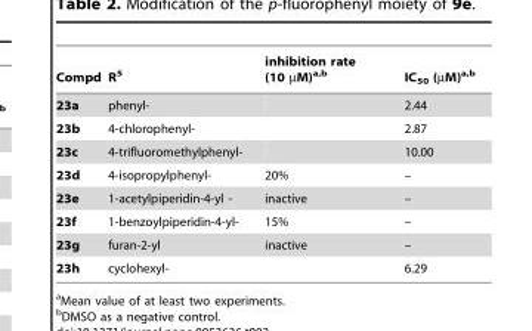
<table><thead><tr><td>Compd</td><td>R<sup>5</sup></td><td>inhibition rate (10 µM)a,b</td><td>IC<sub>50</sub> (µM)a,b</td></tr></thead><tbody><tr><td>23a</td><td>phenyl-</td><td></td><td>2.44</td></tr><tr><td>23b</td><td>4-chlorophenyl-</td><td></td><td>2.87</td></tr><tr><td>23c</td><td>4-trifluoromethylphenyl-</td><td></td><td>10.00</td></tr><tr><td>23d</td><td>4-isopropylphenyl-</td><td>20%</td><td>–</td></tr><tr><td>23e</td><td>1-acetylpiperidin-4-yl -</td><td>inactive</td><td>–</td></tr><tr><td>23f</td><td>1-benzoylpiperidin-4-yl-</td><td>15%</td><td>–</td></tr><tr><td>23g</td><td>furan-2-yl</td><td>inactive</td><td>–</td></tr><tr><td>23h</td><td>cyclohexyl-</td><td></td><td>6.29</td></tr></tbody></table>